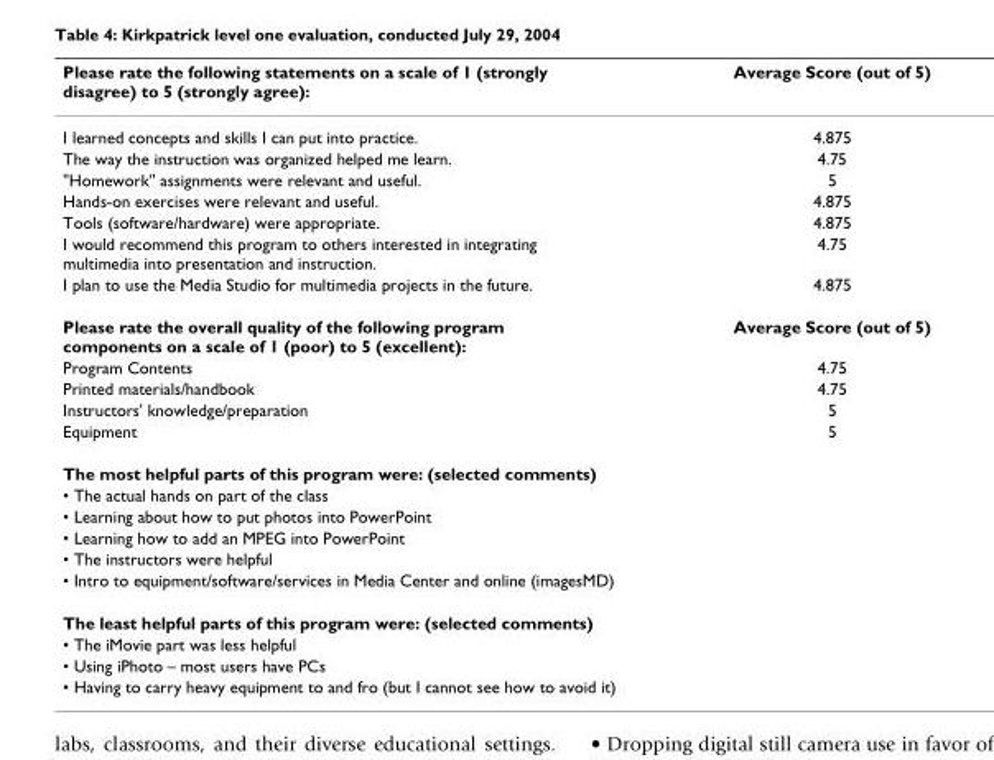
<table><thead><tr><td>Please rate the following statements on a scale of 1 (strongly disagree) to 5 (strongly agree):</td><td>Average Score (out of 5)</td></tr></thead><tbody><tr><td>I learned concepts and skills I can put into practice.</td><td>4.875</td></tr><tr><td>The way the instruction was organized helped me learn.</td><td>4.75</td></tr><tr><td>&quot;Homework&quot; assignments were relevant and useful.</td><td>5</td></tr><tr><td>Hands-on exercises were relevant and useful.</td><td>4.875</td></tr><tr><td>Tools (software/hardware) were appropriate.</td><td>4.875</td></tr><tr><td>I would recommend this program to others interested in integrating multimedia into presentation and instruction.</td><td>4.75</td></tr><tr><td>I plan to use the Media Studio for multimedia projects in the future.</td><td>4.875</td></tr><tr><td>Please rate the overall quality of the following program components on a scale of 1 (poor) to 5 (excellent):</td><td>Average Score (out of 5)</td></tr><tr><td>Program Contents</td><td>4.75</td></tr><tr><td>Printed materials/handbook</td><td>4.75</td></tr><tr><td>Instructors&#x27; knowledge/preparation</td><td>5</td></tr><tr><td>Equipment</td><td>5</td></tr><tr><td colspan="2">The most helpful parts of this program were: (selected comments)</td></tr><tr><td colspan="2">• The actual hands on part of the class</td></tr><tr><td colspan="2">• Learning about how to put photos into PowerPoint</td></tr><tr><td colspan="2">• Learning how to add an MPEG into PowerPoint</td></tr><tr><td colspan="2">• The instructors were helpful</td></tr><tr><td colspan="2">• Intro to equipment/software/services in Media Center and online (imagesMD)</td></tr><tr><td colspan="2">The least helpful parts of this program were: (selected comments)</td></tr><tr><td colspan="2">• The iMovie part was less helpful</td></tr><tr><td colspan="2">• Using iPhoto – most users have PCs</td></tr><tr><td colspan="2">• Having to carry heavy equipment to and fro (but I cannot see how to avoid it)</td></tr></tbody></table>